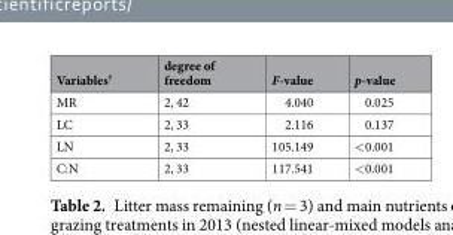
<table><thead><tr><td>Variables<sup>†</sup></td><td>degree of freedom</td><td>F-value</td><td>p-value</td></tr></thead><tbody><tr><td>MR</td><td>2, 42</td><td>4.040</td><td>0.025</td></tr><tr><td>LC</td><td>2, 33</td><td>2.116</td><td>0.137</td></tr><tr><td>LN</td><td>2, 33</td><td>105.149</td><td>&lt;0.001</td></tr><tr><td>C:N</td><td>2, 33</td><td>117.541</td><td>&lt;0.001</td></tr></tbody></table>